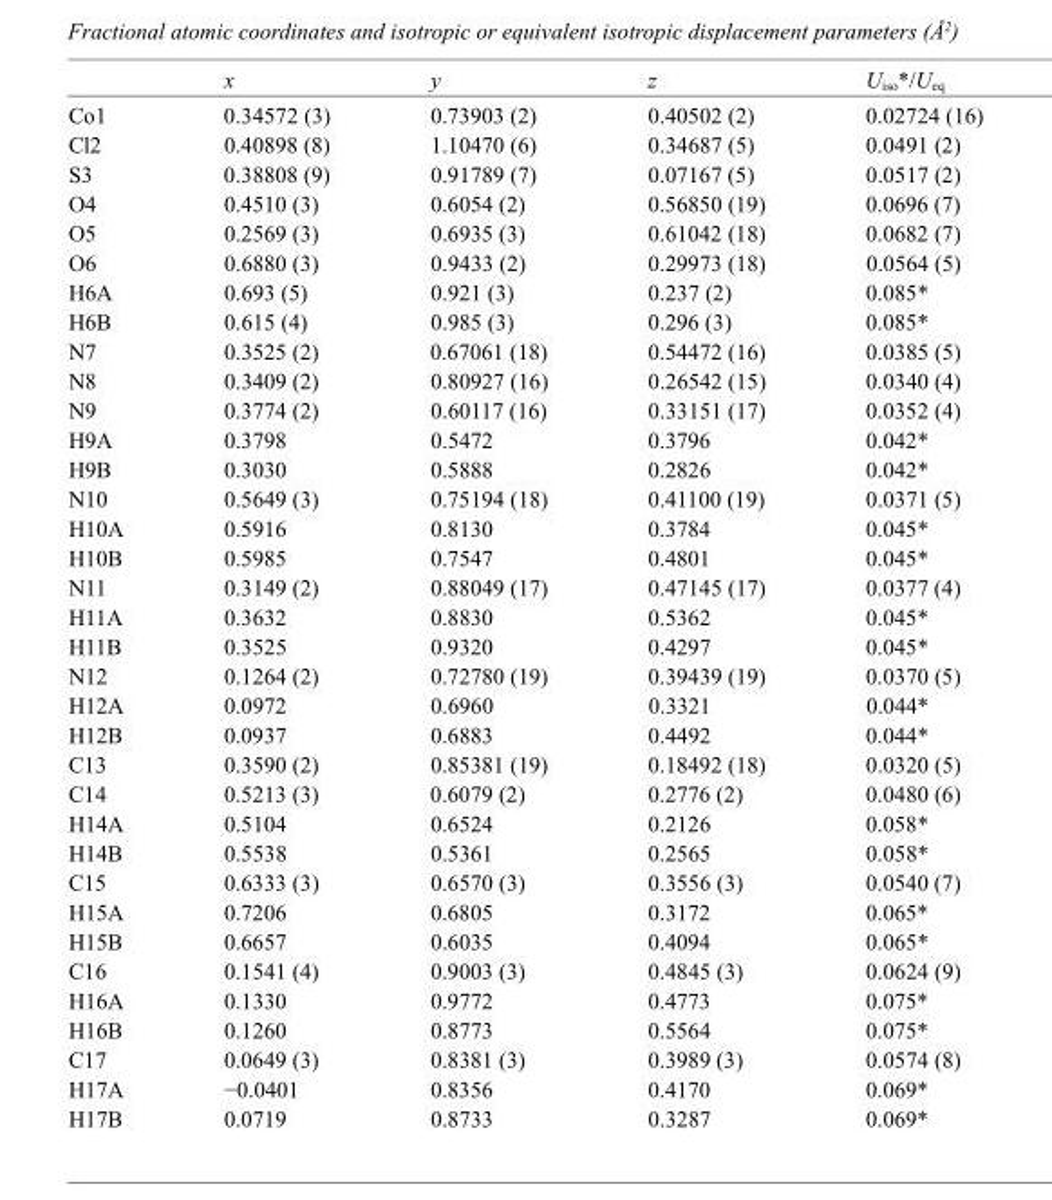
<table><thead><tr><td></td><td>x</td><td>y</td><td>z</td><td>U<sub>iso</sub>*/U<sub>eq</sub></td></tr></thead><tbody><tr><td>Co1</td><td>0.34572 (3)</td><td>0.73903 (2)</td><td>0.40502 (2)</td><td>0.02724 (16)</td></tr><tr><td>Cl2</td><td>0.40898 (8)</td><td>1.10470 (6)</td><td>0.34687 (5)</td><td>0.0491 (2)</td></tr><tr><td>S3</td><td>0.38808 (9)</td><td>0.91789 (7)</td><td>0.07167 (5)</td><td>0.0517 (2)</td></tr><tr><td>O4</td><td>0.4510 (3)</td><td>0.6054 (2)</td><td>0.56850 (19)</td><td>0.0696 (7)</td></tr><tr><td>O5</td><td>0.2569 (3)</td><td>0.6935 (3)</td><td>0.61042 (18)</td><td>0.0682 (7)</td></tr><tr><td>O6</td><td>0.6880 (3)</td><td>0.9433 (2)</td><td>0.29973 (18)</td><td>0.0564 (5)</td></tr><tr><td>H6A</td><td>0.693 (5)</td><td>0.921 (3)</td><td>0.237 (2)</td><td>0.085*</td></tr><tr><td>H6B</td><td>0.615 (4)</td><td>0.985 (3)</td><td>0.296 (3)</td><td>0.085*</td></tr><tr><td>N7</td><td>0.3525 (2)</td><td>0.67061 (18)</td><td>0.54472 (16)</td><td>0.0385 (5)</td></tr><tr><td>N8</td><td>0.3409 (2)</td><td>0.80927 (16)</td><td>0.26542 (15)</td><td>0.0340 (4)</td></tr><tr><td>N9</td><td>0.3774 (2)</td><td>0.60117 (16)</td><td>0.33151 (17)</td><td>0.0352 (4)</td></tr><tr><td>H9A</td><td>0.3798</td><td>0.5472</td><td>0.3796</td><td>0.042*</td></tr><tr><td>H9B</td><td>0.3030</td><td>0.5888</td><td>0.2826</td><td>0.042*</td></tr><tr><td>N10</td><td>0.5649 (3)</td><td>0.75194 (18)</td><td>0.41100 (19)</td><td>0.0371 (5)</td></tr><tr><td>H10A</td><td>0.5916</td><td>0.8130</td><td>0.3784</td><td>0.045*</td></tr><tr><td>H10B</td><td>0.5985</td><td>0.7547</td><td>0.4801</td><td>0.045*</td></tr><tr><td>N11</td><td>0.3149 (2)</td><td>0.88049 (17)</td><td>0.47145 (17)</td><td>0.0377 (4)</td></tr><tr><td>H11A</td><td>0.3632</td><td>0.8830</td><td>0.5362</td><td>0.045*</td></tr><tr><td>H11B</td><td>0.3525</td><td>0.9320</td><td>0.4297</td><td>0.045*</td></tr><tr><td>N12</td><td>0.1264 (2)</td><td>0.72780 (19)</td><td>0.39439 (19)</td><td>0.0370 (5)</td></tr><tr><td>H12A</td><td>0.0972</td><td>0.6960</td><td>0.3321</td><td>0.044*</td></tr><tr><td>H12B</td><td>0.0937</td><td>0.6883</td><td>0.4492</td><td>0.044*</td></tr><tr><td>C13</td><td>0.3590 (2)</td><td>0.85381 (19)</td><td>0.18492 (18)</td><td>0.0320 (5)</td></tr><tr><td>C14</td><td>0.5213 (3)</td><td>0.6079 (2)</td><td>0.2776 (2)</td><td>0.0480 (6)</td></tr><tr><td>H14A</td><td>0.5104</td><td>0.6524</td><td>0.2126</td><td>0.058*</td></tr><tr><td>H14B</td><td>0.5538</td><td>0.5361</td><td>0.2565</td><td>0.058*</td></tr><tr><td>C15</td><td>0.6333 (3)</td><td>0.6570 (3)</td><td>0.3556 (3)</td><td>0.0540 (7)</td></tr><tr><td>H15A</td><td>0.7206</td><td>0.6805</td><td>0.3172</td><td>0.065*</td></tr><tr><td>H15B</td><td>0.6657</td><td>0.6035</td><td>0.4094</td><td>0.065*</td></tr><tr><td>C16</td><td>0.1541 (4)</td><td>0.9003 (3)</td><td>0.4845 (3)</td><td>0.0624 (9)</td></tr><tr><td>H16A</td><td>0.1330</td><td>0.9772</td><td>0.4773</td><td>0.075*</td></tr><tr><td>H16B</td><td>0.1260</td><td>0.8773</td><td>0.5564</td><td>0.075*</td></tr><tr><td>C17</td><td>0.0649 (3)</td><td>0.8381 (3)</td><td>0.3989 (3)</td><td>0.0574 (8)</td></tr><tr><td>H17A</td><td>−0.0401</td><td>0.8356</td><td>0.4170</td><td>0.069*</td></tr><tr><td>H17B</td><td>0.0719</td><td>0.8733</td><td>0.3287</td><td>0.069*</td></tr></tbody></table>